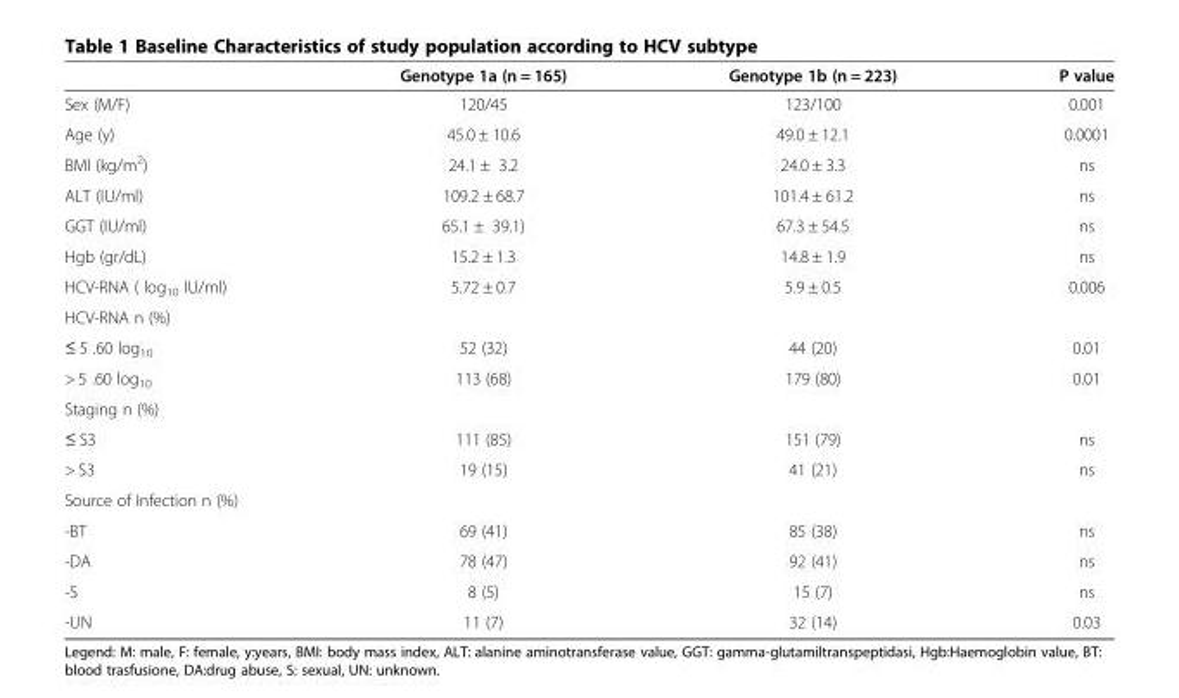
<table><thead><tr><td></td><td>Genotype 1a (n = 165)</td><td>Genotype 1b (n = 223)</td><td>P value</td></tr></thead><tbody><tr><td>Sex (M/F)</td><td>120/45</td><td>123/100</td><td>0.001</td></tr><tr><td>Age (y)</td><td>45.0 ± 10.6</td><td>49.0 ± 12.1</td><td>0.0001</td></tr><tr><td>BMI (kg/m<sup>2</sup>)</td><td>24.1 ± 3.2</td><td>24.0 ± 3.3</td><td>ns</td></tr><tr><td>ALT (IU/ml)</td><td>109.2 ± 68.7</td><td>101.4 ± 61.2</td><td>ns</td></tr><tr><td>GGT (IU/ml)</td><td>65.1 ± 39.1)</td><td>67.3 ± 54.5</td><td>ns</td></tr><tr><td>Hgb (gr/dL)</td><td>15.2 ± 1.3</td><td>14.8 ± 1.9</td><td>ns</td></tr><tr><td>HCV-RNA ( log<sub>10</sub> IU/ml)</td><td>5.72 ± 0.7</td><td>5.9 ± 0.5</td><td>0.006</td></tr><tr><td colspan="4">HCV-RNA n (%)</td></tr><tr><td>≤ 5 .60 log<sub>10</sub></td><td>52 (32)</td><td>44 (20)</td><td>0.01</td></tr><tr><td>&gt; 5 .60 log<sub>10</sub></td><td>113 (68)</td><td>179 (80)</td><td>0.01</td></tr><tr><td colspan="4">Staging n (%)</td></tr><tr><td>≤ S3</td><td>111 (85)</td><td>151 (79)</td><td>ns</td></tr><tr><td>&gt; S3</td><td>19 (15)</td><td>41 (21)</td><td>ns</td></tr><tr><td colspan="4">Source of Infection n (%)</td></tr><tr><td>-BT</td><td>69 (41)</td><td>85 (38)</td><td>ns</td></tr><tr><td>-DA</td><td>78 (47)</td><td>92 (41)</td><td>ns</td></tr><tr><td>-S</td><td>8 (5)</td><td>15 (7)</td><td>ns</td></tr><tr><td>-UN</td><td>11 (7)</td><td>32 (14)</td><td>0.03</td></tr></tbody></table>